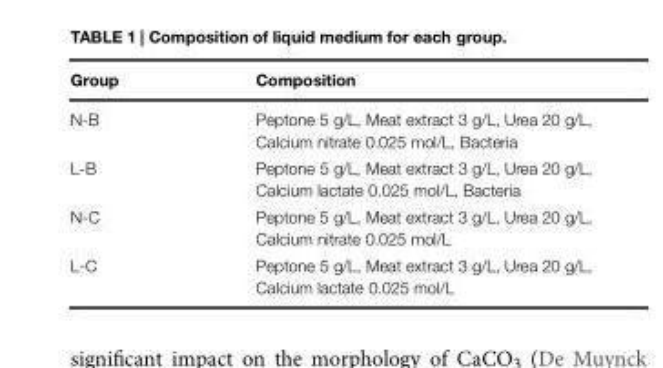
<table><thead><tr><td>Group</td><td>Composition</td></tr></thead><tbody><tr><td>N-B</td><td>Peptone 5 g/L, Meat extract 3 g/L, Urea 20 g/L, Calcium nitrate 0.025 mol/L, Bacteria</td></tr><tr><td>L-B</td><td>Peptone 5 g/L, Meat extract 3 g/L, Urea 20 g/L, Calcium lactate 0.025 mol/L, Bacteria</td></tr><tr><td>N-C</td><td>Peptone 5 g/L, Meat extract 3 g/L, Urea 20 g/L, Calcium nitrate 0.025 mol/L</td></tr><tr><td>L-C</td><td>Peptone 5 g/L, Meat extract 3 g/L, Urea 20 g/L, Calcium lactate 0.025 mol/L</td></tr></tbody></table>